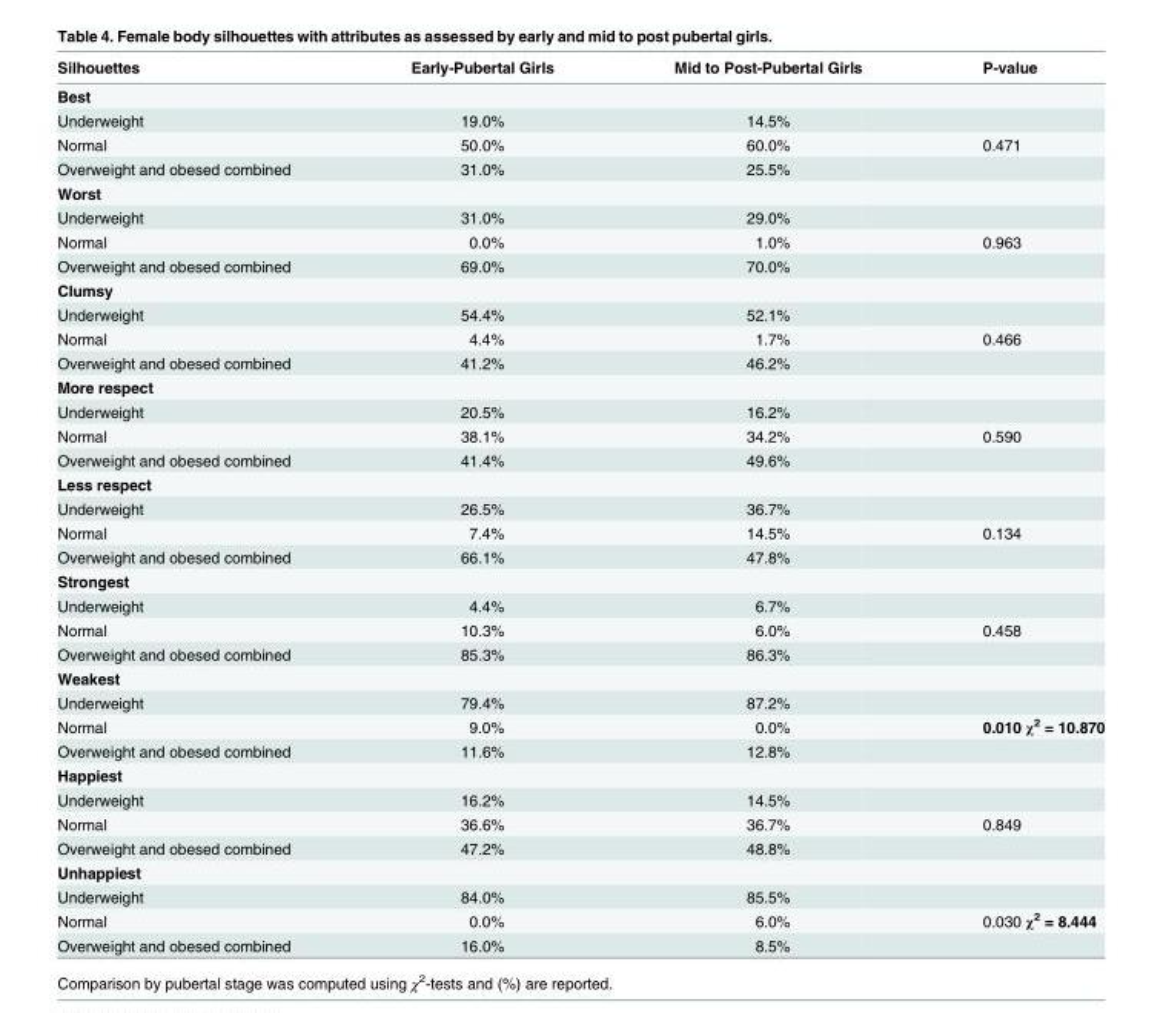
<table><thead><tr><td>Silhouettes</td><td>Early-Pubertal Girls</td><td>Mid to Post-Pubertal Girls</td><td>P-value</td></tr></thead><tbody><tr><td colspan="4">Best</td></tr><tr><td>Underweight</td><td>19.0%</td><td>14.5%</td><td></td></tr><tr><td>Normal</td><td>50.0%</td><td>60.0%</td><td>0.471</td></tr><tr><td>Overweight and obesed combined</td><td>31.0%</td><td>25.5%</td><td></td></tr><tr><td colspan="4">Worst</td></tr><tr><td>Underweight</td><td>31.0%</td><td>29.0%</td><td></td></tr><tr><td>Normal</td><td>0.0%</td><td>1.0%</td><td>0.963</td></tr><tr><td>Overweight and obesed combined</td><td>69.0%</td><td>70.0%</td><td></td></tr><tr><td colspan="4">Clumsy</td></tr><tr><td>Underweight</td><td>54.4%</td><td>52.1%</td><td></td></tr><tr><td>Normal</td><td>4.4%</td><td>1.7%</td><td>0.466</td></tr><tr><td>Overweight and obesed combined</td><td>41.2%</td><td>46.2%</td><td></td></tr><tr><td colspan="4">More respect</td></tr><tr><td>Underweight</td><td>20.5%</td><td>16.2%</td><td></td></tr><tr><td>Normal</td><td>38.1%</td><td>34.2%</td><td>0.590</td></tr><tr><td>Overweight and obesed combined</td><td>41.4%</td><td>49.6%</td><td></td></tr><tr><td colspan="4">Less respect</td></tr><tr><td>Underweight</td><td>26.5%</td><td>36.7%</td><td></td></tr><tr><td>Normal</td><td>7.4%</td><td>14.5%</td><td>0.134</td></tr><tr><td>Overweight and obesed combined</td><td>66.1%</td><td>47.8%</td><td></td></tr><tr><td colspan="4">Strongest</td></tr><tr><td>Underweight</td><td>4.4%</td><td>6.7%</td><td></td></tr><tr><td>Normal</td><td>10.3%</td><td>6.0%</td><td>0.458</td></tr><tr><td>Overweight and obesed combined</td><td>85.3%</td><td>86.3%</td><td></td></tr><tr><td colspan="4">Weakest</td></tr><tr><td>Underweight</td><td>79.4%</td><td>87.2%</td><td></td></tr><tr><td>Normal</td><td>9.0%</td><td>0.0%</td><td>0.010 χ<sup>2</sup> = 10.870</td></tr><tr><td>Overweight and obesed combined</td><td>11.6%</td><td>12.8%</td><td></td></tr><tr><td colspan="4">Happiest</td></tr><tr><td>Underweight</td><td>16.2%</td><td>14.5%</td><td></td></tr><tr><td>Normal</td><td>36.6%</td><td>36.7%</td><td>0.849</td></tr><tr><td>Overweight and obesed combined</td><td>47.2%</td><td>48.8%</td><td></td></tr><tr><td colspan="4">Unhappiest</td></tr><tr><td>Underweight</td><td>84.0%</td><td>85.5%</td><td></td></tr><tr><td>Normal</td><td>0.0%</td><td>6.0%</td><td>0.030 χ<sup>2</sup> = 8.444</td></tr><tr><td>Overweight and obesed combined</td><td>16.0%</td><td>8.5%</td><td></td></tr></tbody></table>